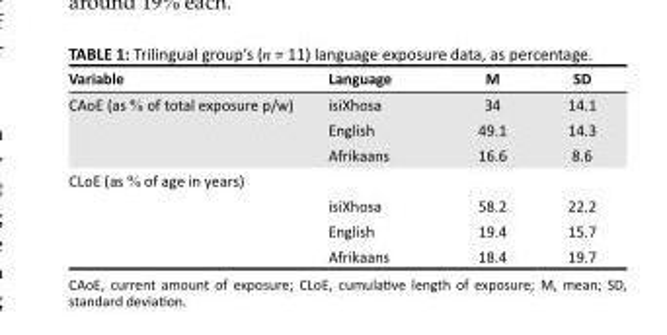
<table><thead><tr><td>Variable</td><td>Language</td><td>M</td><td>SD</td></tr></thead><tbody><tr><td rowspan="3">CAoE (as % of total exposure p/w)</td><td>isiXhosa</td><td>34</td><td>14.1</td></tr><tr><td>English</td><td>49.1</td><td>14.3</td></tr><tr><td>Afrikaans</td><td>16.6</td><td>8.6</td></tr><tr><td colspan="4">CLoE (as % of age in years)</td></tr><tr><td></td><td>isiXhosa</td><td>58.2</td><td>22.2</td></tr><tr><td></td><td>English</td><td>19.4</td><td>15.7</td></tr><tr><td></td><td>Afrikaans</td><td>18.4</td><td>19.7</td></tr></tbody></table>